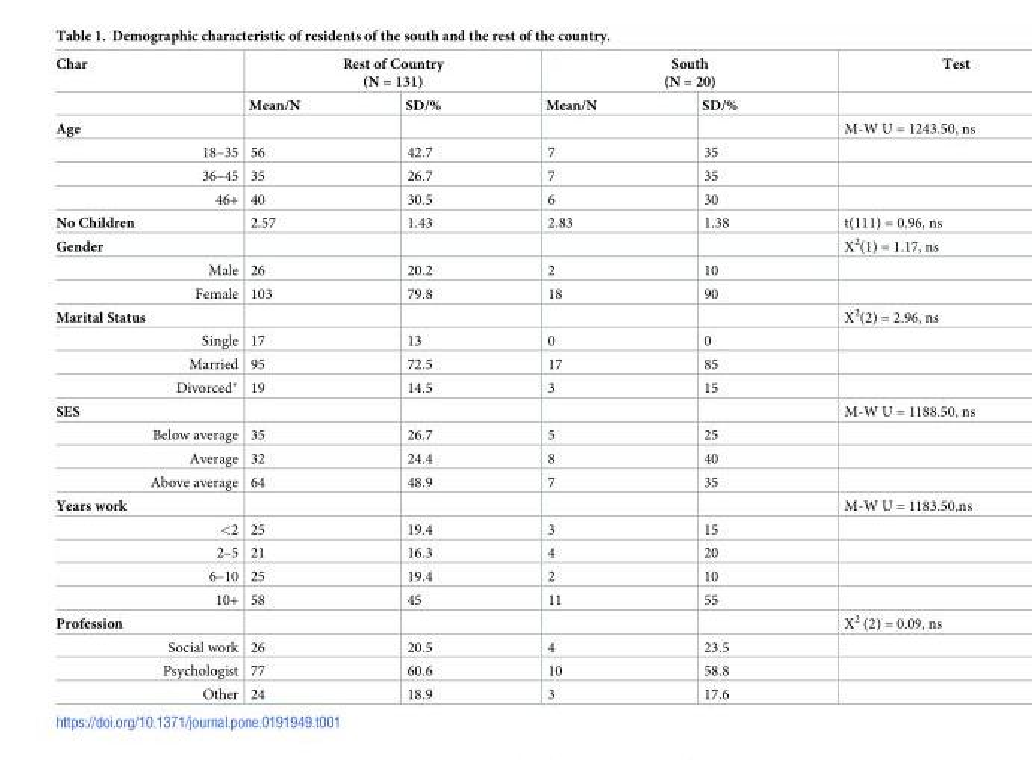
<table><thead><tr><td rowspan="2">Char</td><td colspan="2">Rest of Country (N = 131)</td><td colspan="2">South (N = 20)</td><td rowspan="2">Test</td></tr><tr><td>Mean/N</td><td>SD/%</td><td>Mean/N</td><td>SD/%</td></tr></thead><tbody><tr><td>Age</td><td></td><td></td><td></td><td></td><td>M-W U = 1243.50, ns</td></tr><tr><td>18–35</td><td>56</td><td>42.7</td><td>7</td><td>35</td><td></td></tr><tr><td>36–45</td><td>35</td><td>26.7</td><td>7</td><td>35</td><td></td></tr><tr><td>46+</td><td>40</td><td>30.5</td><td>6</td><td>30</td><td></td></tr><tr><td>No Children</td><td>2.57</td><td>1.43</td><td>2.83</td><td>1.38</td><td>t(111) = 0.96, ns</td></tr><tr><td>Gender</td><td></td><td></td><td></td><td></td><td>X<sup>2</sup>(1) = 1.17, ns</td></tr><tr><td>Male</td><td>26</td><td>20.2</td><td>2</td><td>10</td><td></td></tr><tr><td>Female</td><td>103</td><td>79.8</td><td>18</td><td>90</td><td></td></tr><tr><td>Marital Status</td><td></td><td></td><td></td><td></td><td>X<sup>2</sup>(2) = 2.96, ns</td></tr><tr><td>Single</td><td>17</td><td>13</td><td>0</td><td>0</td><td></td></tr><tr><td>Married</td><td>95</td><td>72.5</td><td>17</td><td>85</td><td></td></tr><tr><td>Divorced*</td><td>19</td><td>14.5</td><td>3</td><td>15</td><td></td></tr><tr><td>SES</td><td></td><td></td><td></td><td></td><td>M-W U = 1188.50, ns</td></tr><tr><td>Below average</td><td>35</td><td>26.7</td><td>5</td><td>25</td><td></td></tr><tr><td>Average</td><td>32</td><td>24.4</td><td>8</td><td>40</td><td></td></tr><tr><td>Above average</td><td>64</td><td>48.9</td><td>7</td><td>35</td><td></td></tr><tr><td>Years work</td><td></td><td></td><td></td><td></td><td>M-W U = 1183.50,ns</td></tr><tr><td>&lt;2</td><td>25</td><td>19.4</td><td>3</td><td>15</td><td></td></tr><tr><td>2–5</td><td>21</td><td>16.3</td><td>4</td><td>20</td><td></td></tr><tr><td>6–10</td><td>25</td><td>19.4</td><td>2</td><td>10</td><td></td></tr><tr><td>10+</td><td>58</td><td>45</td><td>11</td><td>55</td><td></td></tr><tr><td>Profession</td><td></td><td></td><td></td><td></td><td>X<sup>2</sup> (2) = 0.09, ns</td></tr><tr><td>Social work</td><td>26</td><td>20.5</td><td>4</td><td>23.5</td><td></td></tr><tr><td>Psychologist</td><td>77</td><td>60.6</td><td>10</td><td>58.8</td><td></td></tr><tr><td>Other</td><td>24</td><td>18.9</td><td>3</td><td>17.6</td><td></td></tr></tbody></table>